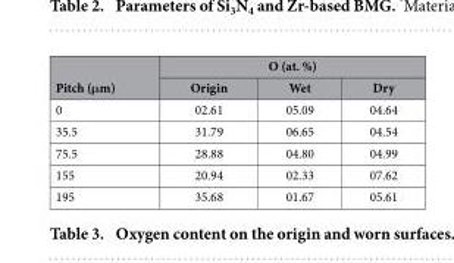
<table><thead><tr><td rowspan="2">Pitch (μm)</td><td colspan="3">O (at. %)</td></tr><tr><td>Origin</td><td>Wet</td><td>Dry</td></tr></thead><tbody><tr><td>0</td><td>02.61</td><td>05.09</td><td>04.64</td></tr><tr><td>35.5</td><td>31.79</td><td>06.65</td><td>04.54</td></tr><tr><td>75.5</td><td>28.88</td><td>04.80</td><td>04.99</td></tr><tr><td>155</td><td>20.94</td><td>02.33</td><td>07.62</td></tr><tr><td>195</td><td>35.68</td><td>01.67</td><td>05.61</td></tr></tbody></table>